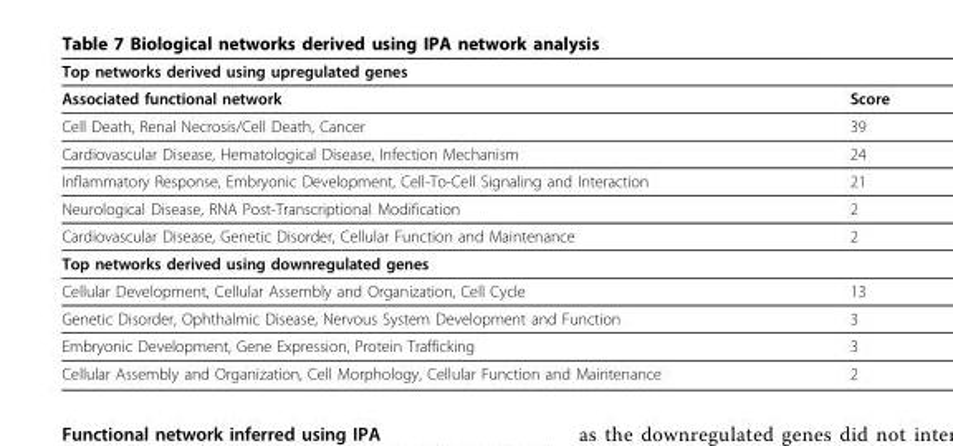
<table><thead><tr><td colspan="2">Top networks derived using upregulated genes</td></tr><tr><td>Associated functional network</td><td>Score</td></tr></thead><tbody><tr><td>Cell Death, Renal Necrosis/Cell Death, Cancer</td><td>39</td></tr><tr><td>Cardiovascular Disease, Hematological Disease, Infection Mechanism</td><td>24</td></tr><tr><td>Inflammatory Response, Embryonic Development, Cell-To-Cell Signaling and Interaction</td><td>21</td></tr><tr><td>Neurological Disease, RNA Post-Transcriptional Modification</td><td>2</td></tr><tr><td>Cardiovascular Disease, Genetic Disorder, Cellular Function and Maintenance</td><td>2</td></tr><tr><td colspan="2">Top networks derived using downregulated genes</td></tr><tr><td>Cellular Development, Cellular Assembly and Organization, Cell Cycle</td><td>13</td></tr><tr><td>Genetic Disorder, Ophthalmic Disease, Nervous System Development and Function</td><td>3</td></tr><tr><td>Embryonic Development, Gene Expression, Protein Trafficking</td><td>3</td></tr><tr><td>Cellular Assembly and Organization, Cell Morphology, Cellular Function and Maintenance</td><td>2</td></tr></tbody></table>